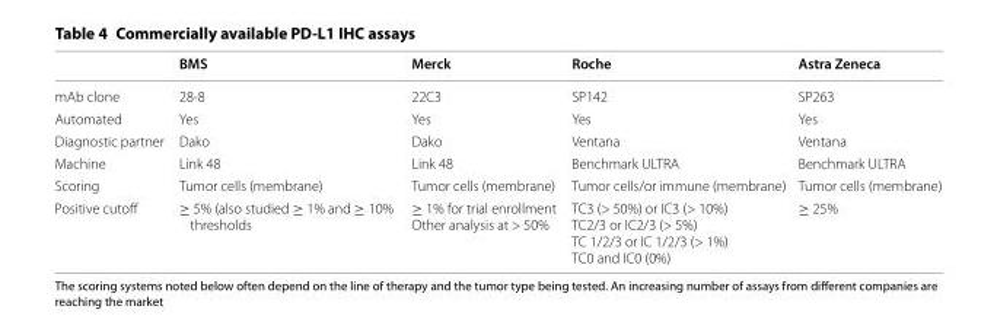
<table><thead><tr><td></td><td>BMS</td><td>Merck</td><td>Roche</td><td>Astra Zeneca</td></tr></thead><tbody><tr><td>mAb clone</td><td>28-8</td><td>22C3</td><td>SP142</td><td>SP263</td></tr><tr><td>Automated</td><td>Yes</td><td>Yes</td><td>Yes</td><td>Yes</td></tr><tr><td>Diagnostic partner</td><td>Dako</td><td>Dako</td><td>Ventana</td><td>Ventana</td></tr><tr><td>Machine</td><td>Link 48</td><td>Link 48</td><td>Benchmark ULTRA</td><td>Benchmark ULTRA</td></tr><tr><td>Scoring</td><td>Tumor cells (membrane)</td><td>Tumor cells (membrane)</td><td>Tumor cells/or immune (membrane)</td><td>Tumor cells (membrane)</td></tr><tr><td>Positive cutoff</td><td>≥ 5% (also studied ≥ 1% and ≥ 10% thresholds</td><td>≥ 1% for trial enrollment Other analysis at &gt; 50%</td><td>TC3 (&gt; 50%) or IC3 (&gt; 10%) TC2/3 or IC2/3 (&gt; 5%) TC 1/2/3 or IC 1/2/3 (&gt; 1%) TC0 and IC0 (0%)</td><td>≥ 25%</td></tr></tbody></table>